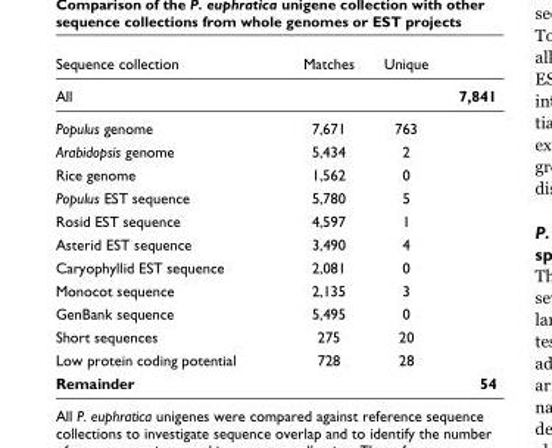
<table><thead><tr><td>Sequence collection</td><td>Matches</td><td>Unique</td><td></td></tr></thead><tbody><tr><td>All</td><td></td><td></td><td>7,841</td></tr><tr><td>Populus genome</td><td>7,671</td><td>763</td><td></td></tr><tr><td>Arabidopsis genome</td><td>5,434</td><td>2</td><td></td></tr><tr><td>Rice genome</td><td>1,562</td><td>0</td><td></td></tr><tr><td>Populus EST sequence</td><td>5,780</td><td>5</td><td></td></tr><tr><td>Rosid EST sequence</td><td>4,597</td><td>1</td><td></td></tr><tr><td>Asterid EST sequence</td><td>3,490</td><td>4</td><td></td></tr><tr><td>Caryophyllid EST sequence</td><td>2,081</td><td>0</td><td></td></tr><tr><td>Monocot sequence</td><td>2,135</td><td>3</td><td></td></tr><tr><td>GenBank sequence</td><td>5,495</td><td>0</td><td></td></tr><tr><td>Short sequences</td><td>275</td><td>20</td><td></td></tr><tr><td>Low protein coding potential</td><td>728</td><td>28</td><td></td></tr><tr><td>Remainder</td><td></td><td></td><td>54</td></tr></tbody></table>